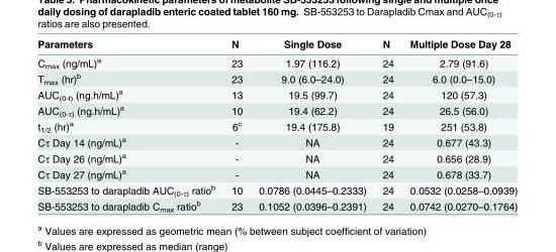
<table><thead><tr><td>Parameters</td><td>N</td><td>Single Dose</td><td>N</td><td>Multiple Dose Day 28</td></tr></thead><tbody><tr><td>C<sub>max</sub> (ng/mL)<sup>a</sup></td><td>23</td><td>1.97 (116.2)</td><td>24</td><td>2.79 (91.6)</td></tr><tr><td>T<sub>max</sub> (hr)<sup>b</sup></td><td>23</td><td>9.0 (6.0–24.0)</td><td>24</td><td>6.0 (0.0–15.0)</td></tr><tr><td>AUC<sub>(0-t)</sub> (ng.h/mL)<sup>a</sup></td><td>13</td><td>19.5 (99.7)</td><td>24</td><td>120 (57.3)</td></tr><tr><td>AUC<sub>(0-τ)</sub> (ng.h/mL)<sup>a</sup></td><td>10</td><td>19.4 (62.2)</td><td>24</td><td>26.5 (56.0)</td></tr><tr><td>t<sub>1/2</sub> (hr)<sup>a</sup></td><td>6<sup>c</sup></td><td>19.4 (175.8)</td><td>19</td><td>251 (53.8)</td></tr><tr><td>Cτ Day 14 (ng/mL)<sup>a</sup></td><td>-</td><td>NA</td><td>24</td><td>0.677 (43.3)</td></tr><tr><td>Cτ Day 26 (ng/mL)<sup>a</sup></td><td>-</td><td>NA</td><td>24</td><td>0.656 (28.9)</td></tr><tr><td>Cτ Day 27 (ng/mL)<sup>a</sup></td><td>-</td><td>NA</td><td>24</td><td>0.678 (33.7)</td></tr><tr><td>SB-553253 to darapladib AUC<sub>(0-τ)</sub> ratio<sup>b</sup></td><td>10</td><td>0.0786 (0.0445–0.2333)</td><td>24</td><td>0.0532 (0.0258–0.0939)</td></tr><tr><td>SB-553253 to darapladib C<sub>max</sub> ratio<sup>b</sup></td><td>23</td><td>0.1052 (0.0396–0.2391)</td><td>24</td><td>0.0742 (0.0270–0.1764)</td></tr></tbody></table>